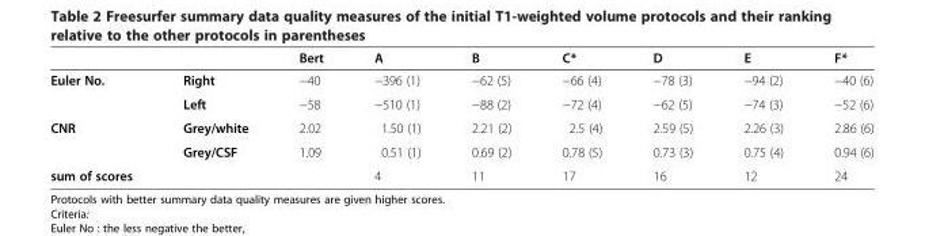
<table><thead><tr><td></td><td></td><td>Bert</td><td>A</td><td>B</td><td>C*</td><td>D</td><td>E</td><td>F*</td></tr></thead><tbody><tr><td rowspan="2">Euler No.</td><td>Right</td><td>−40</td><td>−396 (1)</td><td>−62 (5)</td><td>−66 (4)</td><td>−78 (3)</td><td>−94 (2)</td><td>−40 (6)</td></tr><tr><td>Left</td><td>−58</td><td>−510 (1)</td><td>−88 (2)</td><td>−72 (4)</td><td>−62 (5)</td><td>−74 (3)</td><td>−52 (6)</td></tr><tr><td rowspan="2">CNR</td><td>Grey/white</td><td>2.02</td><td>1.50 (1)</td><td>2.21 (2)</td><td>2.5 (4)</td><td>2.59 (5)</td><td>2.26 (3)</td><td>2.86 (6)</td></tr><tr><td>Grey/CSF</td><td>1.09</td><td>0.51 (1)</td><td>0.69 (2)</td><td>0.78 (5)</td><td>0.73 (3)</td><td>0.75 (4)</td><td>0.94 (6)</td></tr><tr><td>sum of scores</td><td></td><td></td><td>4</td><td>11</td><td>17</td><td>16</td><td>12</td><td>24</td></tr></tbody></table>